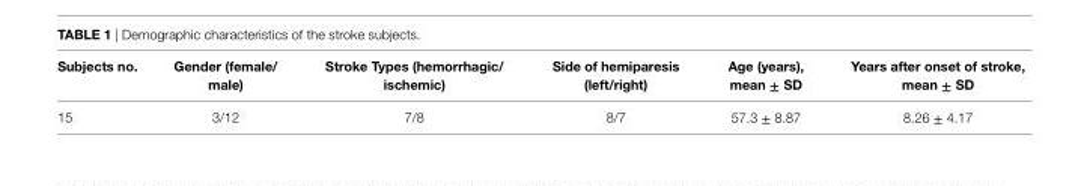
<table><thead><tr><td>Subjects no.</td><td>Gender (female/ male)</td><td>Stroke Types (hemorrhagic/ ischemic)</td><td>Side of hemiparesis (left/right)</td><td>age (years), mean ± SD</td><td>Years after onset of stroke, mean ± SD</td></tr></thead><tbody><tr><td>15</td><td>3/12</td><td>7/8</td><td>8/7</td><td>57.3 ± 8.87</td><td>8.26 ± 4.17</td></tr></tbody></table>